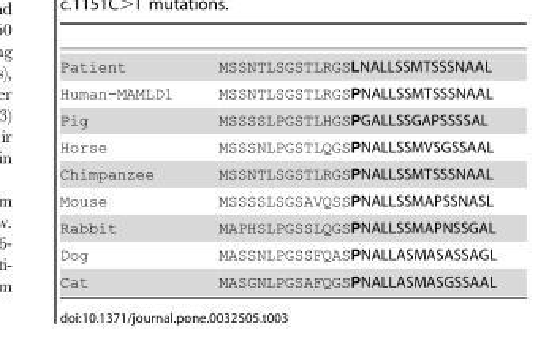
<table><tbody><tr><td>Patient</td><td>MSSNTLSGSTLRGSLNALLSSMTSSSNAAL</td></tr><tr><td>Human-MAMLD1</td><td>MSSNTLSGSTLRGSPNALLSSMTSSSNAAL</td></tr><tr><td>Pig</td><td>MSSSSLPGSTLHGSPGALLSSGAPSSSSAL</td></tr><tr><td>Horse</td><td>MSSSNLPGSTLQGSPNALLSSMVSGSSAAL</td></tr><tr><td>Chimpanzee</td><td>MSSNTLSGSTLRGSPNALLSSMTSSSNAAL</td></tr><tr><td>Mouse</td><td>MSSSSLSGSAVQSSPNALLSSMAPSSNASL</td></tr><tr><td>Rabbit</td><td>MAPHSLPGSSLQGSPNALLSSMAPNSSGAL</td></tr><tr><td>Dog</td><td>MASSNLPGSSFQASPNALLASMASASSAGL</td></tr><tr><td>Cat</td><td>MASGNLPGSAFQGSPNALLASMASGSSAAL</td></tr></tbody></table>